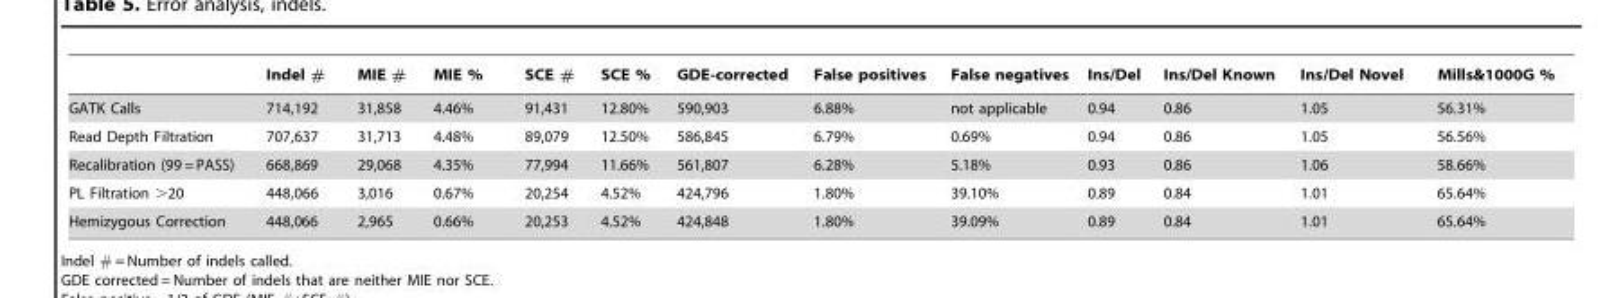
<table><thead><tr><td></td><td>Indel #</td><td>MIE #</td><td>MIE %</td><td>SCE #</td><td>SCE %</td><td>GDE-corrected</td><td>False positives</td><td>False negatives</td><td>Ins/Del</td><td>Ins/Del Known</td><td>Ins/Del Novel</td><td>Mills&amp;1000G %</td></tr></thead><tbody><tr><td>GATK Calls</td><td>714,192</td><td>31,858</td><td>4.46%</td><td>91,431</td><td>12.80%</td><td>590,903</td><td>6.88%</td><td>not applicable</td><td>0.94</td><td>0.86</td><td>1.05</td><td>56.31%</td></tr><tr><td>Read Depth Filtration</td><td>707,637</td><td>31,713</td><td>4.48%</td><td>89,079</td><td>12.50%</td><td>586,845</td><td>6.79%</td><td>0.69%</td><td>0.94</td><td>0.86</td><td>1.05</td><td>56.56%</td></tr><tr><td>Recalibration (99 = PASS)</td><td>668,869</td><td>29,068</td><td>4.35%</td><td>77,994</td><td>11.66%</td><td>561,807</td><td>6.28%</td><td>5.18%</td><td>0.93</td><td>0.86</td><td>1.06</td><td>58.66%</td></tr><tr><td>PL Filtration &gt;20</td><td>448,066</td><td>3,016</td><td>0.67%</td><td>20,254</td><td>4.52%</td><td>424,796</td><td>1.80%</td><td>39.10%</td><td>0.89</td><td>0.84</td><td>1.01</td><td>65.64%</td></tr><tr><td>Hemizygous Correction</td><td>448,066</td><td>2,965</td><td>0.66%</td><td>20,253</td><td>4.52%</td><td>424,848</td><td>1.80%</td><td>39.09%</td><td>0.89</td><td>0.84</td><td>1.01</td><td>65.64%</td></tr></tbody></table>